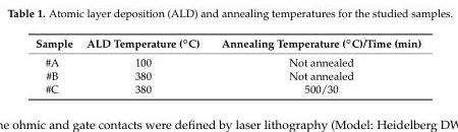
<table><thead><tr><td>Sample</td><td>ALD Temperature (◦C)</td><td>Annealing Temperature (◦C)/Time (min)</td></tr></thead><tbody><tr><td>#A</td><td>100</td><td>Not annealed</td></tr><tr><td>#B</td><td>380</td><td>Not annealed</td></tr><tr><td>#C</td><td>380</td><td>500/30</td></tr></tbody></table>